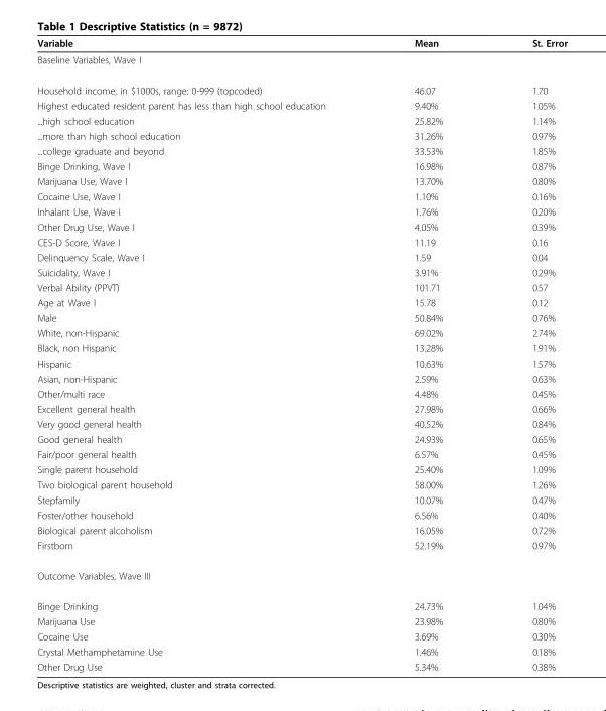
<table><thead><tr><td>Variable</td><td>Mean</td><td>St. Error</td></tr></thead><tbody><tr><td colspan="3">Baseline Variables, Wave I</td></tr><tr><td>Household income, in $1000s, range: 0-999 (topcoded)</td><td>46.07</td><td>1.70</td></tr><tr><td>Highest educated resident parent has less than high school education</td><td>9.40%</td><td>1.05%</td></tr><tr><td>...high school education</td><td>25.82%</td><td>1.14%</td></tr><tr><td>...more than high school education</td><td>31.26%</td><td>0.97%</td></tr><tr><td>...college graduate and beyond</td><td>33.53%</td><td>1.85%</td></tr><tr><td>Binge Drinking, Wave I</td><td>16.98%</td><td>0.87%</td></tr><tr><td>Marijuana Use, Wave I</td><td>13.70%</td><td>0.80%</td></tr><tr><td>Cocaine Use, Wave I</td><td>1.10%</td><td>0.16%</td></tr><tr><td>Inhalant Use, Wave I</td><td>1.76%</td><td>0.20%</td></tr><tr><td>Other Drug Use, Wave I</td><td>4.05%</td><td>0.39%</td></tr><tr><td>CES-D Score, Wave I</td><td>11.19</td><td>0.16</td></tr><tr><td>Delinquency Scale, Wave I</td><td>1.59</td><td>0.04</td></tr><tr><td>Suicidality, Wave I</td><td>3.91%</td><td>0.29%</td></tr><tr><td>Verbal Ability (PPVT)</td><td>101.71</td><td>0.57</td></tr><tr><td>Age at Wave I</td><td>15.78</td><td>0.12</td></tr><tr><td>Male</td><td>50.84%</td><td>0.76%</td></tr><tr><td>White, non-Hispanic</td><td>69.02%</td><td>2.74%</td></tr><tr><td>Black, non Hispanic</td><td>13.28%</td><td>1.91%</td></tr><tr><td>Hispanic</td><td>10.63%</td><td>1.57%</td></tr><tr><td>Asian, non-Hispanic</td><td>2.59%</td><td>0.63%</td></tr><tr><td>Other/multi race</td><td>4.48%</td><td>0.45%</td></tr><tr><td>Excellent general health</td><td>27.98%</td><td>0.66%</td></tr><tr><td>Very good general health</td><td>40.52%</td><td>0.84%</td></tr><tr><td>Good general health</td><td>24.93%</td><td>0.65%</td></tr><tr><td>Fair/poor general health</td><td>6.57%</td><td>0.45%</td></tr><tr><td>Single parent household</td><td>25.40%</td><td>1.09%</td></tr><tr><td>Two biological parent household</td><td>58.00%</td><td>1.26%</td></tr><tr><td>Stepfamily</td><td>10.07%</td><td>0.47%</td></tr><tr><td>Foster/other household</td><td>6.56%</td><td>0.40%</td></tr><tr><td>Biological parent alcoholism</td><td>16.05%</td><td>0.72%</td></tr><tr><td>Firstborn</td><td>52.19%</td><td>0.97%</td></tr><tr><td colspan="3">Outcome Variables, Wave III</td></tr><tr><td>Binge Drinking</td><td>24.73%</td><td>1.04%</td></tr><tr><td>Marijuana Use</td><td>23.98%</td><td>0.80%</td></tr><tr><td>Cocaine Use</td><td>3.69%</td><td>0.30%</td></tr><tr><td>Crystal Methamphetamine Use</td><td>1.46%</td><td>0.18%</td></tr><tr><td>Other Drug Use</td><td>5.34%</td><td>0.38%</td></tr></tbody></table>